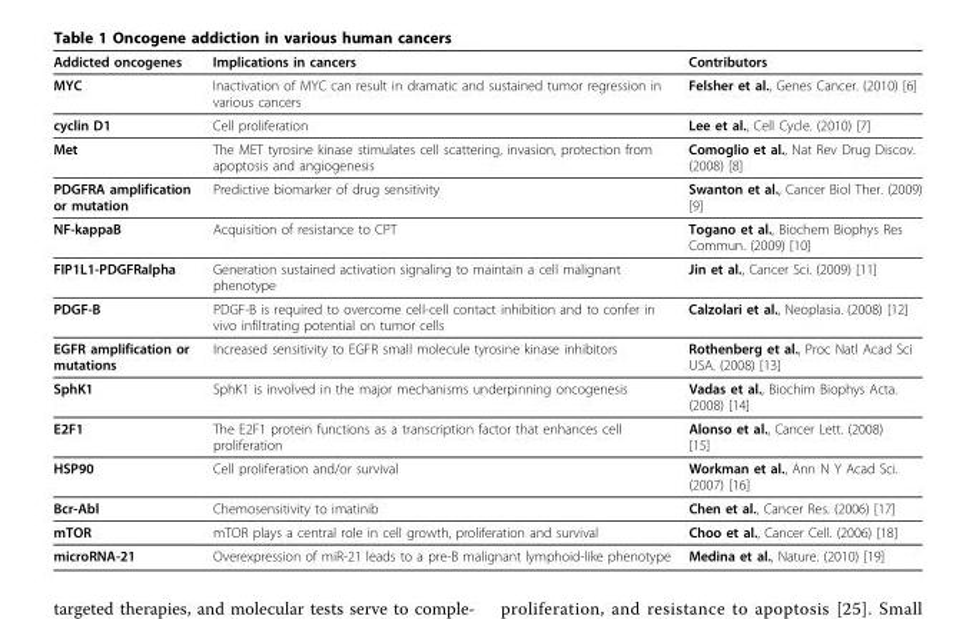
<table><thead><tr><td>Addicted oncogenes</td><td>Implications in cancers</td><td>Contributors</td></tr></thead><tbody><tr><td>MYC</td><td>Inactivation of MYC can result in dramatic and sustained tumor regression in various cancers</td><td>Felsher et al., Genes Cancer. (2010) [6]</td></tr><tr><td>cyclin D1</td><td>Cell proliferation</td><td>Lee et al., Cell Cycle. (2010) [7]</td></tr><tr><td>Met</td><td>The MET tyrosine kinase stimulates cell scattering, invasion, protection from apoptosis and angiogenesis</td><td>Comoglio et al., Nat Rev Drug Discov. (2008) [8]</td></tr><tr><td>PDGFRA amplification or mutation</td><td>Predictive biomarker of drug sensitivity</td><td>Swanton et al., Cancer Biol Ther. (2009) [9]</td></tr><tr><td>NF-kappaB</td><td>Acquisition of resistance to CPT</td><td>Togano et al., Biochem Biophys Res Commun. (2009) [10]</td></tr><tr><td>FIP1L1-PDGFRalpha</td><td>Generation sustained activation signaling to maintain a cell malignant phenotype</td><td>Jin et al., Cancer Sci. (2009) [11]</td></tr><tr><td>PDGF-B</td><td>PDGF-B is required to overcome cell-cell contact inhibition and to confer in vivo infiltrating potential on tumor cells</td><td>Calzolari et al., Neoplasia. (2008) [12]</td></tr><tr><td>EGFR amplification or mutations</td><td>Increased sensitivity to EGFR small molecule tyrosine kinase inhibitors</td><td>Rothenberg et al., Proc Natl Acad Sci USA. (2008) [13]</td></tr><tr><td>SphK1</td><td>SphK1 is involved in the major mechanisms underpinning oncogenesis</td><td>Vadas et al., Biochim Biophys Acta. (2008) [14]</td></tr><tr><td>E2F1</td><td>The E2F1 protein functions as a transcription factor that enhances cell proliferation</td><td>Alonso et al., Cancer Lett. (2008) [15]</td></tr><tr><td>HSP90</td><td>Cell proliferation and/or survival</td><td>Workman et al., Ann N Y Acad Sci. (2007) [16]</td></tr><tr><td>Bcr-Abl</td><td>Chemosensitivity to imatinib</td><td>Chen et al., Cancer Res. (2006) [17]</td></tr><tr><td>mTOR</td><td>mTOR plays a central role in cell growth, proliferation and survival</td><td>Choo et al., Cancer Cell. (2006) [18]</td></tr><tr><td>microRNA-21</td><td>Overexpression of miR-21 leads to a pre-B malignant lymphoid-like phenotype</td><td>Medina et al., Nature. (2010) [19]</td></tr></tbody></table>